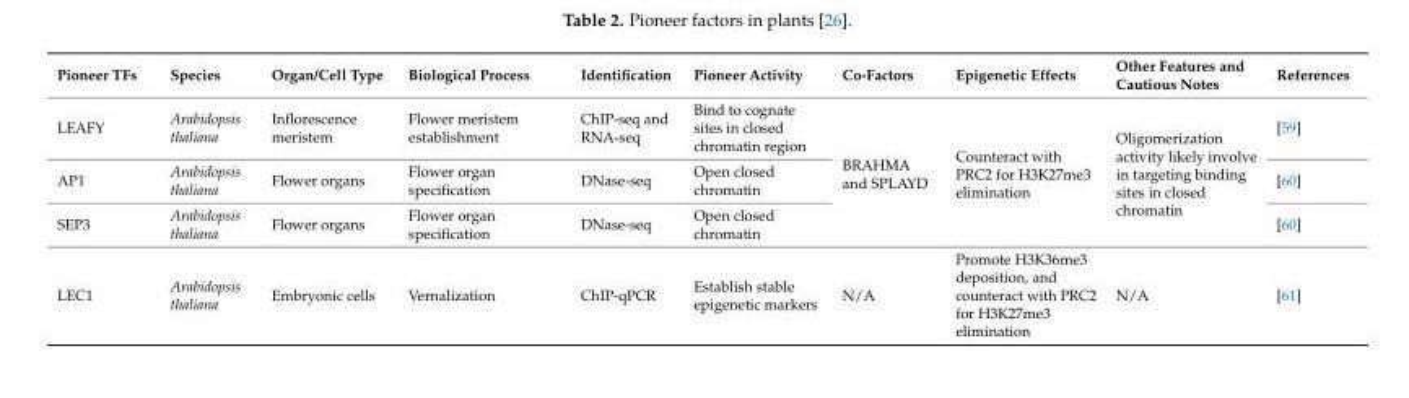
<table><thead><tr><td>Pioneer TFs</td><td>Species</td><td>Organ/Cell Type</td><td>Biological Process</td><td>Identification</td><td>Pioneer Activity</td><td>Co-Factors</td><td>Epigenetic Effects</td><td>Other Features and Cautious Notes</td><td>References</td></tr></thead><tbody><tr><td>LEAFY</td><td>Arabidopsis thaliana</td><td>Inflorescence meristem</td><td>Flower meristem establishment</td><td>ChIP-seq and RNA-seq</td><td>Bind to cognate sites in closed chromatin region</td><td rowspan="3">BRAHMA and SPLAYD</td><td rowspan="3">Counteract with PRC2 for H3K27me3 elimination</td><td rowspan="3">Oligomerization activity likely involve in targeting binding sites in closed chromatin</td><td>[59]</td></tr><tr><td>AP1</td><td>Arabidopsis thaliana</td><td>Flower organs</td><td>Flower organ specification</td><td>DNase-seq</td><td>Open closed chromatin</td><td>[60]</td></tr><tr><td>SEP3</td><td>Arabidopsis thaliana</td><td>Flower organs</td><td>Flower organ specification</td><td>DNase-seq</td><td>Open closed chromatin</td><td>[60]</td></tr><tr><td>LEC1</td><td>Arabidopsis thaliana</td><td>Embryonic cells</td><td>Vernalization</td><td>ChIP-qPCR</td><td>Establish stable epigenetic markers</td><td>N/A</td><td>Promote H3K36me3 deposition, and counteract with PRC2 for H3K27me3 elimination</td><td>N/A</td><td>[61]</td></tr></tbody></table>